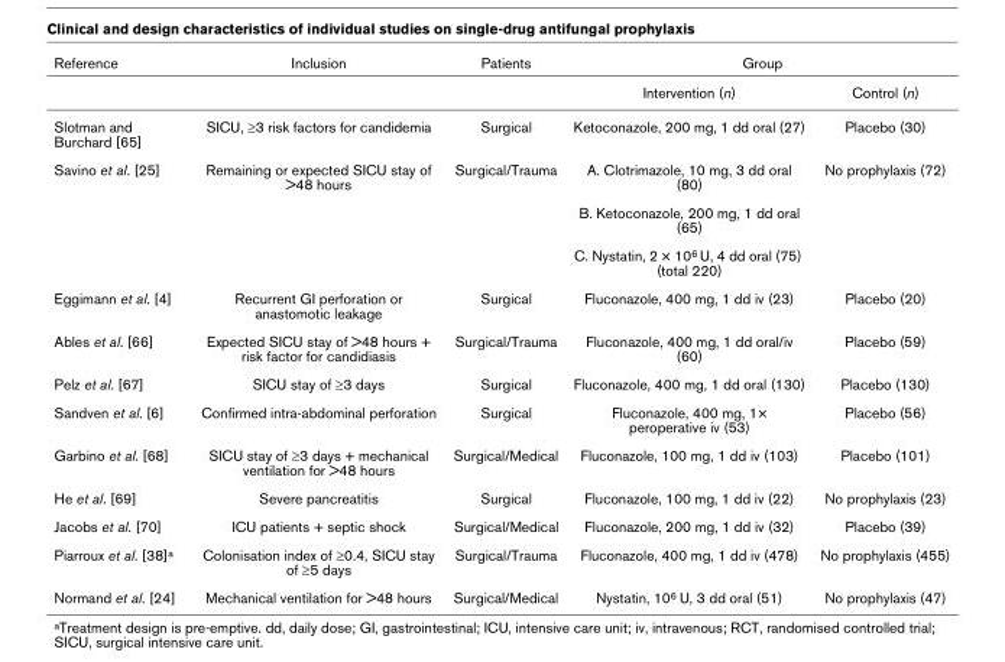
<table><thead><tr><td rowspan="2">Reference</td><td rowspan="2">Inclusion</td><td rowspan="2">Patients</td><td colspan="2">Group</td></tr><tr><td>Intervention (n)</td><td>Control (n)</td></tr></thead><tbody><tr><td>Slotman and Burchard [65]</td><td>SICU, ≥3 risk factors for candidemia</td><td>Surgical</td><td>Ketoconazole, 200 mg, 1 dd oral (27)</td><td>Placebo (30)</td></tr><tr><td rowspan="3">Savino et al. [25]</td><td>Remaining or expected SICU stay of &gt;48 hours</td><td>Surgical/Trauma</td><td>A. Clotrimazole, 10 mg, 3 dd oral (80)</td><td>No prophylaxis (72)</td></tr><tr><td></td><td></td><td>B. Ketoconazole, 200 mg, 1 dd oral (65)</td><td></td></tr><tr><td></td><td></td><td>C. Nystatin, 2 × 10<sup>6</sup> U, 4 dd oral (75) (total 220)</td><td></td></tr><tr><td>Eggimann et al. [4]</td><td>Recurrent GI perforation or anastomotic leakage</td><td>Surgical</td><td>Fluconazole, 400 mg, 1 dd iv (23)</td><td>Placebo (20)</td></tr><tr><td>Ables et al. [66]</td><td>Expected SICU stay of &gt;48 hours + risk factor for candidiasis</td><td>Surgical/Trauma</td><td>Fluconazole, 400 mg, 1 dd oral/iv (60)</td><td>Placebo (59)</td></tr><tr><td>Pelz et al. [67]</td><td>SICU stay of ≥3 days</td><td>Surgical</td><td>Fluconazole, 400 mg, 1 dd oral (130)</td><td>Placebo (130)</td></tr><tr><td>Sandven et al. [6]</td><td>Confirmed intra-abdominal perforation</td><td>Surgical</td><td>Fluconazole, 400 mg, 1× peroperative iv (53)</td><td>Placebo (56)</td></tr><tr><td>Garbino et al. [68]</td><td>SICU stay of ≥3 days + mechanical ventilation for &gt;48 hours</td><td>Surgical/Medical</td><td>Fluconazole, 100 mg, 1 dd iv (103)</td><td>Placebo (101)</td></tr><tr><td>He et al. [69]</td><td>Severe pancreatitis</td><td>Surgical</td><td>Fluconazole, 100 mg, 1 dd iv (22)</td><td>No prophylaxis (23)</td></tr><tr><td>Jacobs et al. [70]</td><td>ICU patients + septic shock</td><td>Surgical/Medical</td><td>Fluconazole, 200 mg, 1 dd iv (32)</td><td>Placebo (39)</td></tr><tr><td>Piarroux et al. [38]<sup>a</sup></td><td>Colonisation index of ≥0.4, SICU stay of ≥5 days</td><td>Surgical/Trauma</td><td>Fluconazole, 400 mg, 1 dd iv (478)</td><td>No prophylaxis (455)</td></tr><tr><td>Normand et al. [24]</td><td>Mechanical ventilation for &gt;48 hours</td><td>Surgical/Medical</td><td>Nystatin, 10<sup>6</sup> U, 3 dd oral (51)</td><td>No prophylaxis (47)</td></tr></tbody></table>